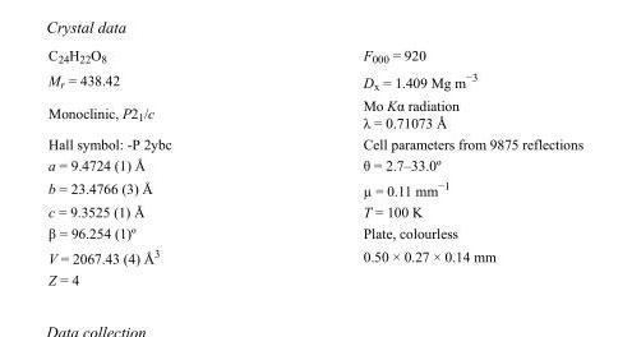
<table><tbody><tr><td>C<sub>24</sub>H<sub>22</sub>O<sub>8</sub></td><td>F000 = 920</td></tr><tr><td>M<sub>r</sub> = 438.42</td><td>D<sub>x</sub> = 1.409 Mg m<sup>−3</sup></td></tr><tr><td>Monoclinic, P2<sub>1</sub>/c</td><td>Mo Kα radiation λ = 0.71073 Å</td></tr><tr><td>Hall symbol: -P 2ybc</td><td>Cell parameters from 9875 reflections</td></tr><tr><td>a = 9.4724 (1) Å</td><td>θ = 2.7–33.0º</td></tr><tr><td>b = 23.4766 (3) Å</td><td>µ = 0.11 mm<sup>−1</sup></td></tr><tr><td>c = 9.3525 (1) Å</td><td>T = 100 K</td></tr><tr><td>β = 96.254 (1)º</td><td>Plate, colourless</td></tr><tr><td>V = 2067.43 (4) Å<sup>3</sup></td><td>0.50 × 0.27 × 0.14 mm</td></tr><tr><td>Z = 4</td><td></td></tr></tbody></table>